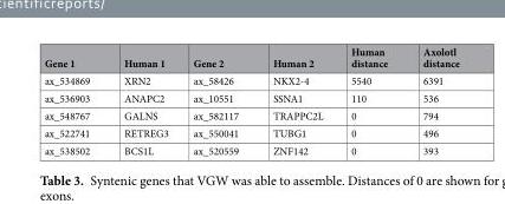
<table><thead><tr><td>Gene 1</td><td>Human 1</td><td>Gene 2</td><td>Human 2</td><td>Human distance</td><td>Axolotl distance</td></tr></thead><tbody><tr><td>ax_534869</td><td>XRN2</td><td>ax_58426</td><td>NKX2-4</td><td>5540</td><td>6391</td></tr><tr><td>ax_536903</td><td>ANAPC2</td><td>ax_10551</td><td>SSNA1</td><td>110</td><td>536</td></tr><tr><td>ax_548767</td><td>GALNS</td><td>ax_582117</td><td>TRAPPC2L</td><td>0</td><td>794</td></tr><tr><td>ax_522741</td><td>RETREG3</td><td>ax_550041</td><td>TUBG1</td><td>0</td><td>496</td></tr><tr><td>ax_538502</td><td>BCS1L</td><td>ax_520559</td><td>ZNF142</td><td>0</td><td>393</td></tr></tbody></table>